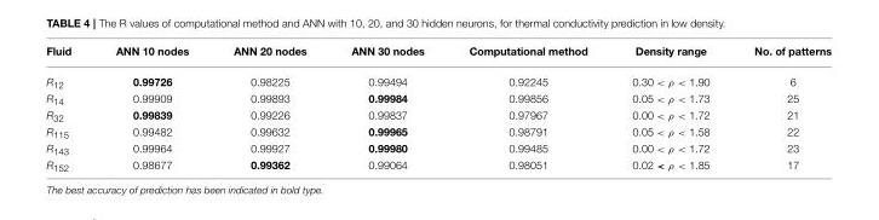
<table><thead><tr><td>Fluid</td><td>ANN 10 nodes</td><td>ANN 20 nodes</td><td>ANN 30 nodes</td><td>Computational method</td><td>Density range</td><td>No. of patterns</td></tr></thead><tbody><tr><td>R<sub>12</sub></td><td>0.99726</td><td>0.98225</td><td>0.99494</td><td>0.92245</td><td>0.30 &lt; ρ &lt; 1.90</td><td>6</td></tr><tr><td>R<sub>14</sub></td><td>0.99909</td><td>0.99893</td><td>0.99984</td><td>0.99856</td><td>0.05 &lt; ρ &lt; 1.73</td><td>25</td></tr><tr><td>R<sub>32</sub></td><td>0.99839</td><td>0.99226</td><td>0.99837</td><td>0.97967</td><td>0.00 &lt; ρ &lt; 1.72</td><td>21</td></tr><tr><td>R<sub>115</sub></td><td>0.99482</td><td>0.99632</td><td>0.99965</td><td>0.98791</td><td>0.05 &lt; ρ &lt; 1.58</td><td>22</td></tr><tr><td>R<sub>143</sub></td><td>0.99964</td><td>0.99927</td><td>0.99980</td><td>0.99485</td><td>0.00 &lt; ρ &lt; 1.72</td><td>23</td></tr><tr><td>R<sub>152</sub></td><td>0.98677</td><td>0.99362</td><td>0.99064</td><td>0.98051</td><td>0.02 &lt; ρ &lt; 1.85</td><td>17</td></tr></tbody></table>